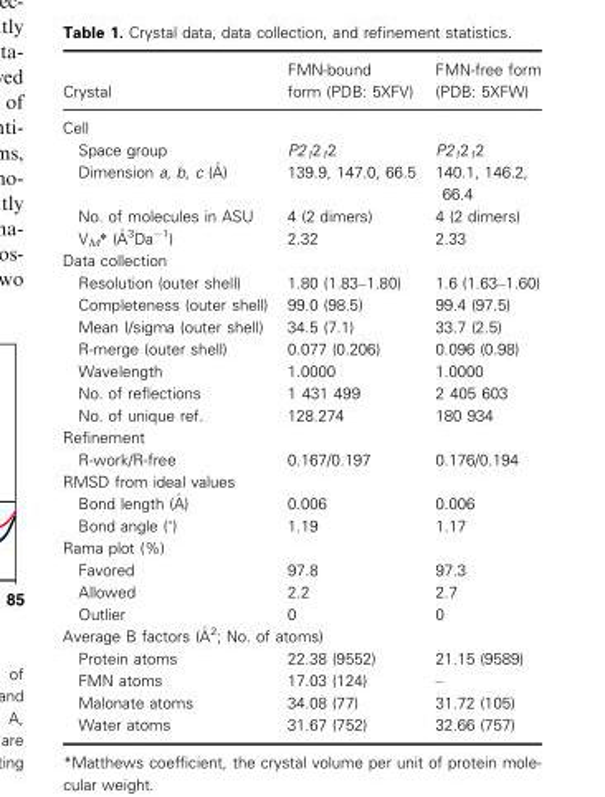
<table><thead><tr><td>Crystal</td><td>FMN-bound form (PDB: 5XFV)</td><td>FMN-free form (PDB: 5XFW)</td></tr></thead><tbody><tr><td colspan="3">Cell</td></tr><tr><td>Space group</td><td>P2<sub>1</sub>2<sub>1</sub>2</td><td>P2<sub>1</sub>2<sub>1</sub>2</td></tr><tr><td>Dimension a, b, c (�A)</td><td>139.9, 147.0, 66.5</td><td>140.1, 146.2, 66.4</td></tr><tr><td>No. of molecules in ASU</td><td>4 (2 dimers)</td><td>4 (2 dimers)</td></tr><tr><td>VM* (�A3Da�1)</td><td>2.32</td><td>2.33</td></tr><tr><td colspan="3">Data collection</td></tr><tr><td>Resolution (outer shell)</td><td>1.80 (1.83–1.80)</td><td>1.6 (1.63–1.60)</td></tr><tr><td>Completeness (outer shell)</td><td>99.0 (98.5)</td><td>99.4 (97.5)</td></tr><tr><td>Mean I/sigma (outer shell)</td><td>34.5 (7.1)</td><td>33.7 (2.5)</td></tr><tr><td>R-merge (outer shell)</td><td>0.077 (0.206)</td><td>0.096 (0.98)</td></tr><tr><td>Wavelength</td><td>1.0000</td><td>1.0000</td></tr><tr><td>No. of reflections</td><td>1 431 499</td><td>2 405 603</td></tr><tr><td>No. of unique ref.</td><td>128.274</td><td>180 934</td></tr><tr><td colspan="3">Refinement</td></tr><tr><td>R-work/R-free</td><td>0.167/0.197</td><td>0.176/0.194</td></tr><tr><td colspan="3">RMSD from ideal values</td></tr><tr><td>Bond length (�A)</td><td>0.006</td><td>0.006</td></tr><tr><td>Bond angle (˚)</td><td>1.19</td><td>1.17</td></tr><tr><td colspan="3">Rama plot (%)</td></tr><tr><td>Favored</td><td>97.8</td><td>97.3</td></tr><tr><td>Allowed</td><td>2.2</td><td>2.7</td></tr><tr><td>Outlier</td><td>0</td><td>0</td></tr><tr><td colspan="3">Average B factors (�A2; No. of atoms)</td></tr><tr><td>Protein atoms</td><td>22.38 (9552)</td><td>21.15 (9589)</td></tr><tr><td>FMN atoms</td><td>17.03 (124)</td><td>–</td></tr><tr><td>Malonate atoms</td><td>34.08 (77)</td><td>31.72 (105)</td></tr><tr><td>Water atoms</td><td>31.67 (752)</td><td>32.66 (757)</td></tr></tbody></table>